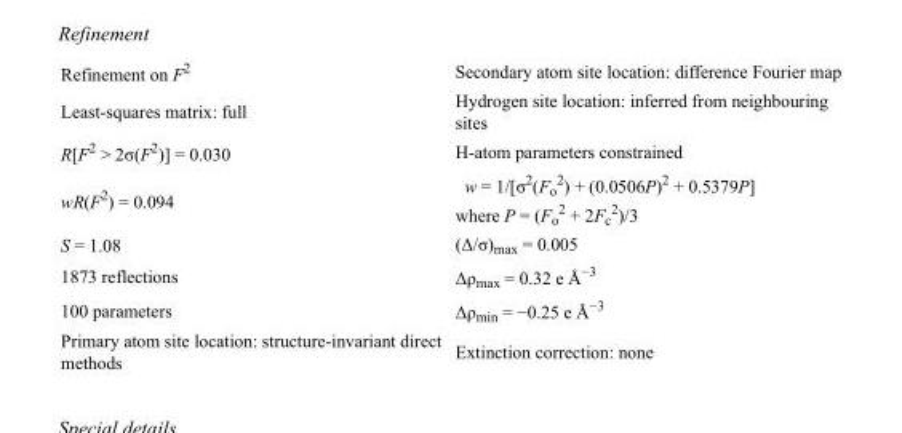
<table><tbody><tr><td>Refinement on F<sup>2</sup></td><td>Secondary atom site location: difference Fourier map</td></tr><tr><td>Least-squares matrix: full</td><td>Hydrogen site location: inferred from neighbouring sites</td></tr><tr><td>R[F<sup>2</sup> &gt; 2σ(F<sup>2</sup>)] = 0.030</td><td>H-atom parameters constrained</td></tr><tr><td>wR(F<sup>2</sup>) = 0.094</td><td>w = 1/[σ<sup>2</sup>(F<sub>o</sub> <sup>2</sup>) + (0.0506P)<sup>2</sup> + 0.5379P] where P = (F<sub>o</sub> <sup>2</sup> + 2F<sub>c</sub> <sup>2</sup>)/3</td></tr><tr><td>S = 1.08</td><td>(Δ/σ)<sub>max</sub> = 0.005</td></tr><tr><td>1873 reflections</td><td>Δρ<sub>max</sub> = 0.32 e Å<sup>−3</sup></td></tr><tr><td>100 parameters</td><td>Δρ<sub>min</sub> = −0.25 e Å<sup>−3</sup></td></tr><tr><td>Primary atom site location: structure-invariant direct methods</td><td>Extinction correction: none</td></tr></tbody></table>